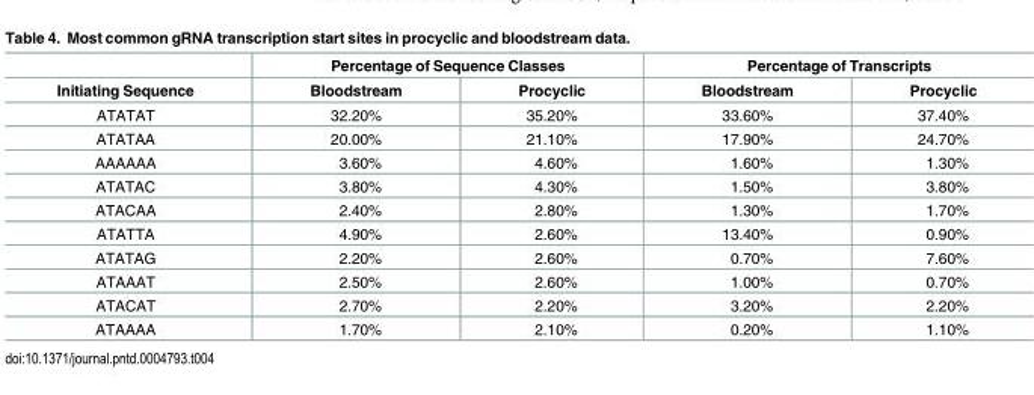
<table><thead><tr><td rowspan="2">Initiating Sequence</td><td colspan="2">Percentage of Sequence Classes</td><td colspan="2">Percentage of Transcripts</td></tr><tr><td>Bloodstream</td><td>Procyclic</td><td>Bloodstream</td><td>Procyclic</td></tr></thead><tbody><tr><td>ATATAT</td><td>32.20%</td><td>35.20%</td><td>33.60%</td><td>37.40%</td></tr><tr><td>ATATAA</td><td>20.00%</td><td>21.10%</td><td>17.90%</td><td>24.70%</td></tr><tr><td>AAAAAA</td><td>3.60%</td><td>4.60%</td><td>1.60%</td><td>1.30%</td></tr><tr><td>ATATAC</td><td>3.80%</td><td>4.30%</td><td>1.50%</td><td>3.80%</td></tr><tr><td>ATACAA</td><td>2.40%</td><td>2.80%</td><td>1.30%</td><td>1.70%</td></tr><tr><td>ATATTA</td><td>4.90%</td><td>2.60%</td><td>13.40%</td><td>0.90%</td></tr><tr><td>ATATAG</td><td>2.20%</td><td>2.60%</td><td>0.70%</td><td>7.60%</td></tr><tr><td>ATAAAT</td><td>2.50%</td><td>2.60%</td><td>1.00%</td><td>0.70%</td></tr><tr><td>ATACAT</td><td>2.70%</td><td>2.20%</td><td>3.20%</td><td>2.20%</td></tr><tr><td>ATAAAA</td><td>1.70%</td><td>2.10%</td><td>0.20%</td><td>1.10%</td></tr></tbody></table>